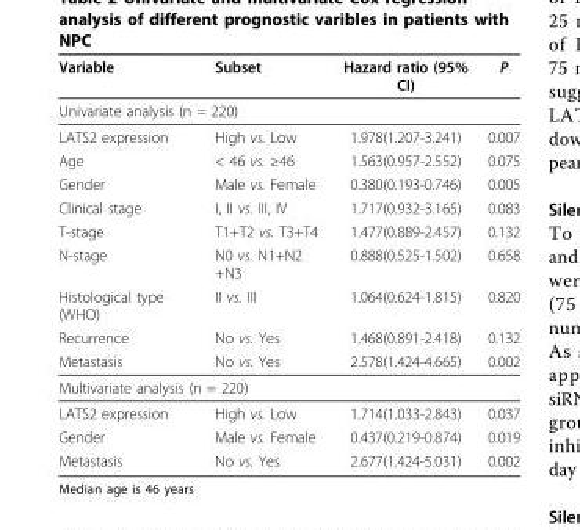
<table><thead><tr><td>Variable</td><td>Subset</td><td>Hazard ratio (95% CI)</td><td>P</td></tr></thead><tbody><tr><td colspan="4">Univariate analysis (n = 220)</td></tr><tr><td>LATS2 expression</td><td>High vs. Low</td><td>1.978(1.207-3.241)</td><td>0.007</td></tr><tr><td>Age</td><td>&lt; 46 vs. ≥46</td><td>1.563(0.957-2.552)</td><td>0.075</td></tr><tr><td>Gender</td><td>Male vs. Female</td><td>0.380(0.193-0.746)</td><td>0.005</td></tr><tr><td>Clinical stage</td><td>I, II vs. III, IV</td><td>1.717(0.932-3.165)</td><td>0.083</td></tr><tr><td>T-stage</td><td>T1+T2 vs. T3+T4</td><td>1.477(0.889-2.457)</td><td>0.132</td></tr><tr><td>N-stage</td><td>N0 vs. N1+N2 +N3</td><td>0.888(0.525-1.502)</td><td>0.658</td></tr><tr><td>Histological type (WHO)</td><td>II vs. III</td><td>1.064(0.624-1.815)</td><td>0.820</td></tr><tr><td>Recurrence</td><td>No vs. Yes</td><td>1.468(0.891-2.418)</td><td>0.132</td></tr><tr><td>Metastasis</td><td>No vs. Yes</td><td>2.578(1.424-4.665)</td><td>0.002</td></tr><tr><td colspan="4">Multivariate analysis (n = 220)</td></tr><tr><td>LATS2 expression</td><td>High vs. Low</td><td>1.714(1.033-2.843)</td><td>0.037</td></tr><tr><td>Gender</td><td>Male vs. Female</td><td>0.437(0.219-0.874)</td><td>0.019</td></tr><tr><td>Metastasis</td><td>No vs. Yes</td><td>2.677(1.424-5.031)</td><td>0.002</td></tr></tbody></table>